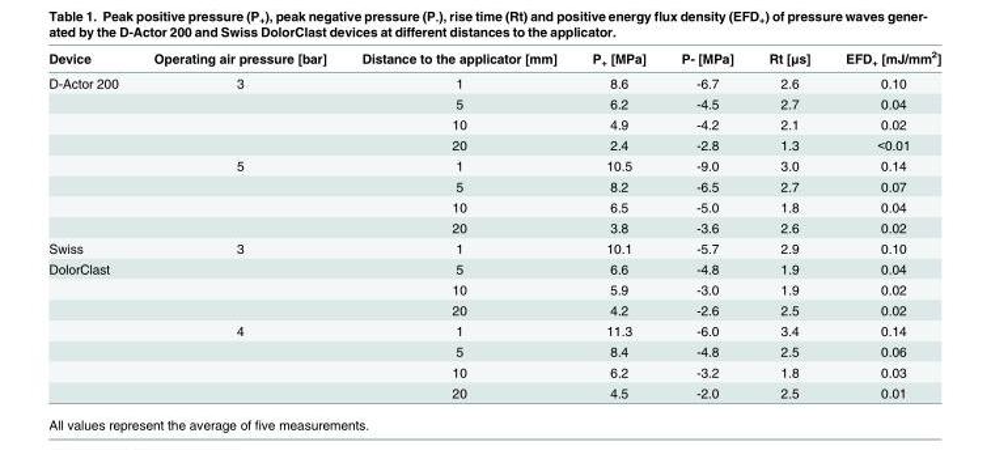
<table><thead><tr><td>Device</td><td>Operating air pressure [bar]</td><td>Distance to the applicator [mm]</td><td>P<sub>+</sub> [MPa]</td><td>P- [MPa]</td><td>Rt [μs]</td><td>EFD<sub>+</sub> [mJ/mm<sup>2</sup>]</td></tr></thead><tbody><tr><td rowspan="8">D-Actor 200</td><td>3</td><td>1</td><td>8.6</td><td>-6.7</td><td>2.6</td><td>0.10</td></tr><tr><td></td><td>5</td><td>6.2</td><td>-4.5</td><td>2.7</td><td>0.04</td></tr><tr><td></td><td>10</td><td>4.9</td><td>-4.2</td><td>2.1</td><td>0.02</td></tr><tr><td></td><td>20</td><td>2.4</td><td>-2.8</td><td>1.3</td><td>&lt;0.01</td></tr><tr><td>5</td><td>1</td><td>10.5</td><td>-9.0</td><td>3.0</td><td>0.14</td></tr><tr><td></td><td>5</td><td>8.2</td><td>-6.5</td><td>2.7</td><td>0.07</td></tr><tr><td></td><td>10</td><td>6.5</td><td>-5.0</td><td>1.8</td><td>0.04</td></tr><tr><td></td><td>20</td><td>3.8</td><td>-3.6</td><td>2.6</td><td>0.02</td></tr><tr><td>Swiss</td><td>3</td><td>1</td><td>10.1</td><td>-5.7</td><td>2.9</td><td>0.10</td></tr><tr><td rowspan="7">DolorClast</td><td></td><td>5</td><td>6.6</td><td>-4.8</td><td>1.9</td><td>0.04</td></tr><tr><td></td><td>10</td><td>5.9</td><td>-3.0</td><td>1.9</td><td>0.02</td></tr><tr><td></td><td>20</td><td>4.2</td><td>-2.6</td><td>2.5</td><td>0.02</td></tr><tr><td>4</td><td>1</td><td>11.3</td><td>-6.0</td><td>3.4</td><td>0.14</td></tr><tr><td></td><td>5</td><td>8.4</td><td>-4.8</td><td>2.5</td><td>0.06</td></tr><tr><td></td><td>10</td><td>6.2</td><td>-3.2</td><td>1.8</td><td>0.03</td></tr><tr><td></td><td>20</td><td>4.5</td><td>-2.0</td><td>2.5</td><td>0.01</td></tr></tbody></table>